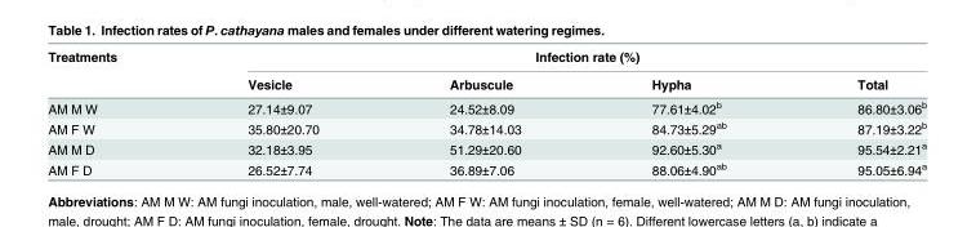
<table><thead><tr><td rowspan="2">Treatments</td><td colspan="4">Infection rate (%)</td></tr><tr><td>Vesicle</td><td>Arbuscule</td><td>Hypha</td><td>Total</td></tr></thead><tbody><tr><td>AM M W</td><td>27.14±9.07</td><td>24.52±8.09</td><td>77.61±4.02<sup>b</sup></td><td>86.80±3.06<sup>b</sup></td></tr><tr><td>AM F W</td><td>35.80±20.70</td><td>34.78±14.03</td><td>84.73±5.29<sup>ab</sup></td><td>87.19±3.22<sup>b</sup></td></tr><tr><td>AM M D</td><td>32.18±3.95</td><td>51.29±20.60</td><td>92.60±5.30<sup>a</sup></td><td>95.54±2.21<sup>a</sup></td></tr><tr><td>AM F D</td><td>26.52±7.74</td><td>36.89±7.06</td><td>88.06±4.90<sup>ab</sup></td><td>95.05±6.94<sup>a</sup></td></tr></tbody></table>